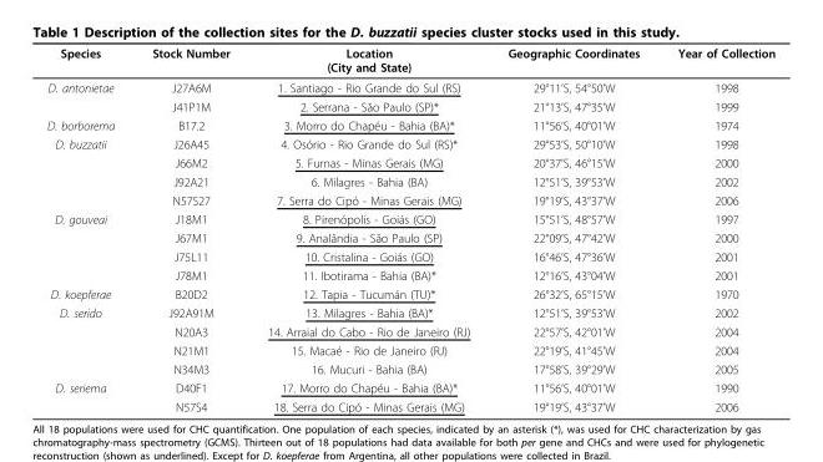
<table><thead><tr><td>Species</td><td>Stock Number</td><td>Location (City and State)</td><td>Geographic Coordinates</td><td>Year of Collection</td></tr></thead><tbody><tr><td rowspan="2">D. antonietae</td><td>J27A6M</td><td>1. Santiago - Rio Grande do Sul (RS)</td><td>29°11’S, 54°50’W</td><td>1998</td></tr><tr><td>J41P1M</td><td>2. Serrana - São Paulo (SP)*</td><td>21°13’S, 47°35’W</td><td>1999</td></tr><tr><td>D. borborema</td><td>B17.2</td><td>3. Morro do Chapéu - Bahia (BA)*</td><td>11°56’S, 40°01’W</td><td>1974</td></tr><tr><td rowspan="4">D. buzzatii</td><td>J26A45</td><td>4. Osório - Rio Grande do Sul (RS)*</td><td>29°53’S, 50°10’W</td><td>1998</td></tr><tr><td>J66M2</td><td>5. Furnas - Minas Gerais (MG)</td><td>20°37’S, 46°15’W</td><td>2000</td></tr><tr><td>J92A21</td><td>6. Milagres - Bahia (BA)</td><td>12°51’S, 39°53’W</td><td>2002</td></tr><tr><td>N57S27</td><td>7. Serra do Cipó - Minas Gerais (MG)</td><td>19°19’S, 43°37’W</td><td>2006</td></tr><tr><td rowspan="4">D. gouveai</td><td>J18M1</td><td>8. Pirenópolis - Goiás (GO)</td><td>15°51’S, 48°57’W</td><td>1997</td></tr><tr><td>J67M1</td><td>9. Analândia - São Paulo (SP)</td><td>22°09’S, 47°42’W</td><td>2000</td></tr><tr><td>J75L11</td><td>10. Cristalina - Goiás (GO)</td><td>16°46’S, 47°36’W</td><td>2001</td></tr><tr><td>J78M1</td><td>11. Ibotirama - Bahia (BA)*</td><td>12°16’S, 43°04’W</td><td>2001</td></tr><tr><td>D. koepferae</td><td>B20D2</td><td>12. Tapia - Tucumán (TU)*</td><td>26°32’S, 65°15’W</td><td>1970</td></tr><tr><td rowspan="4">D. serido</td><td>J92A91M</td><td>13. Milagres - Bahia (BA)*</td><td>12°51’S, 39°53’W</td><td>2002</td></tr><tr><td>N20A3</td><td>14. Arraial do Cabo - Rio de Janeiro (RJ)</td><td>22°57’S, 42°01’W</td><td>2004</td></tr><tr><td>N21M1</td><td>15. Macaé - Rio de Janeiro (RJ)</td><td>22°19’S, 41°45’W</td><td>2004</td></tr><tr><td>N34M3</td><td>16. Mucuri - Bahia (BA)</td><td>17°58’S, 39°29’W</td><td>2005</td></tr><tr><td rowspan="2">D. seriema</td><td>D40F1</td><td>17. Morro do Chapéu - Bahia (BA)*</td><td>11°56’S, 40°01’W</td><td>1990</td></tr><tr><td>N57S4</td><td>18. Serra do Cipó - Minas Gerais (MG)</td><td>19°19’S, 43°37’W</td><td>2006</td></tr></tbody></table>